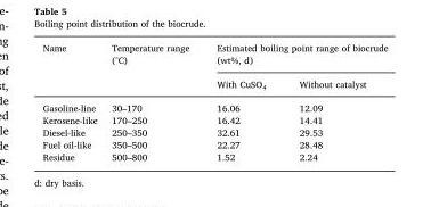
<table><thead><tr><td rowspan="2">Name</td><td rowspan="2">Temperature range (°C)</td><td colspan="2">Estimated boiling point range of biocrude (wt%, d)</td></tr><tr><td>With CuSO<sub>4</sub></td><td>Without catalyst</td></tr></thead><tbody><tr><td>Gasoline-line</td><td>30–170</td><td>16.06</td><td>12.09</td></tr><tr><td>Kerosene-like</td><td>170–250</td><td>16.42</td><td>14.41</td></tr><tr><td>Diesel-like</td><td>250–350</td><td>32.61</td><td>29.53</td></tr><tr><td>Fuel oil-like</td><td>350–500</td><td>22.27</td><td>28.48</td></tr><tr><td>Residue</td><td>500–800</td><td>1.52</td><td>2.24</td></tr></tbody></table>